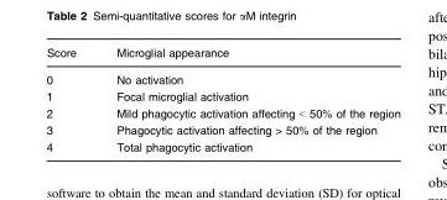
<table><thead><tr><td>Score</td><td>Microglial appearance</td></tr></thead><tbody><tr><td>0</td><td>No activation</td></tr><tr><td>1</td><td>Focal microglial activation</td></tr><tr><td>2</td><td>Mild phagocytic activation affecting &lt; 50% of the region</td></tr><tr><td>3</td><td>Phagocytic activation affecting &gt; 50% of the region</td></tr><tr><td>4</td><td>Total phagocytic activation</td></tr></tbody></table>